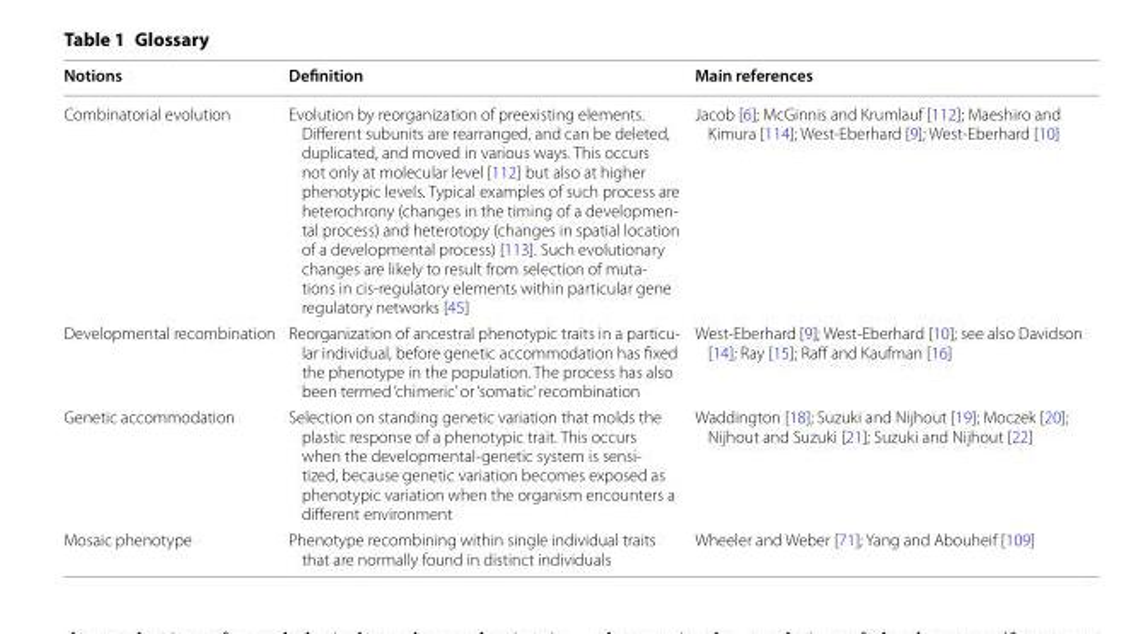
<table><thead><tr><td>Notions</td><td>Definition</td><td>Main references</td></tr></thead><tbody><tr><td>Combinatorial evolution</td><td>Evolution by reorganization of preexisting elements. Different subunits are rearranged, and can be deleted, duplicated, and moved in various ways. This occurs not only at molecular level [112] but also at higher phenotypic levels. Typical examples of such process are heterochrony (changes in the timing of a developmen- tal process) and heterotopy (changes in spatial location of a developmental process) [113]. Such evolutionary changes are likely to result from selection of muta- tions in cis-regulatory elements within particular gene regulatory networks [45]</td><td>Jacob [6]; McGinnis and Krumlauf [112]; Maeshiro and Kimura [114]; West-Eberhard [9]; West-Eberhard [10]</td></tr><tr><td>Developmental recombination</td><td>Reorganization of ancestral phenotypic traits in a particu- lar individual, before genetic accommodation has fixed the phenotype in the population. The process has also been termed ‘chimeric’ or ‘somatic’ recombination</td><td>West-Eberhard [9]; West-Eberhard [10]; see also Davidson [14]; Ray [15]; Raff and Kaufman [16]</td></tr><tr><td>Genetic accommodation</td><td>Selection on standing genetic variation that molds the plastic response of a phenotypic trait. This occurs when the developmental-genetic system is sensi- tized, because genetic variation becomes exposed as phenotypic variation when the organism encounters a different environment</td><td>Waddington [18]; Suzuki and Nijhout [19]; Moczek [20]; Nijhout and Suzuki [21]; Suzuki and Nijhout [22]</td></tr><tr><td>Mosaic phenotype</td><td>Phenotype recombining within single individual traits that are normally found in distinct individuals</td><td>Wheeler and Weber [71]; Yang and Abouheif [109]</td></tr></tbody></table>